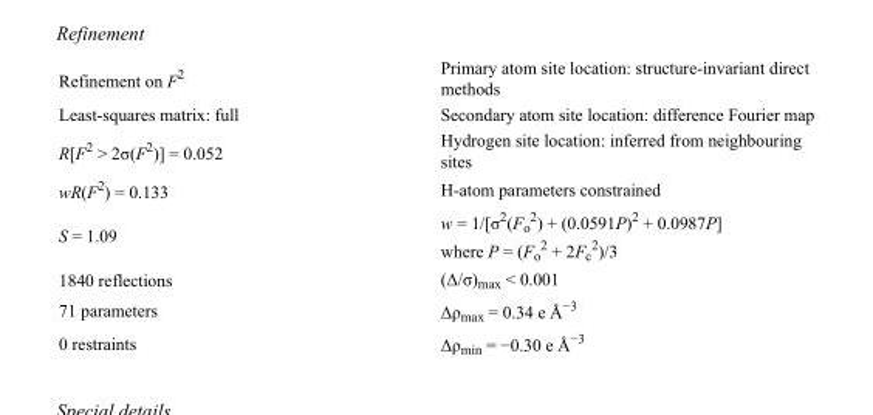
<table><tbody><tr><td>Refinement on F<sup>2</sup></td><td>Primary atom site location: structure-invariant direct methods</td></tr><tr><td>Least-squares matrix: full</td><td>Secondary atom site location: difference Fourier map</td></tr><tr><td>R[F<sup>2</sup> &gt; 2σ(F<sup>2</sup>)] = 0.052</td><td>Hydrogen site location: inferred from neighbouring sites</td></tr><tr><td>wR(F<sup>2</sup>) = 0.133</td><td>H-atom parameters constrained</td></tr><tr><td>S = 1.09</td><td>w = 1/[σ<sup>2</sup>(F<sub>o</sub> <sup>2</sup>) + (0.0591P)<sup>2</sup> + 0.0987P] where P = (F<sub>o</sub> <sup>2</sup> + 2F<sub>c</sub> <sup>2</sup>)/3</td></tr><tr><td>1840 reflections</td><td>(Δ/σ)<sub>max</sub> &lt; 0.001</td></tr><tr><td>71 parameters</td><td>Δρ<sub>max</sub> = 0.34 e Å<sup>−3</sup></td></tr><tr><td>0 restraints</td><td>Δρ<sub>min</sub> = −0.30 e Å<sup>−3</sup></td></tr></tbody></table>